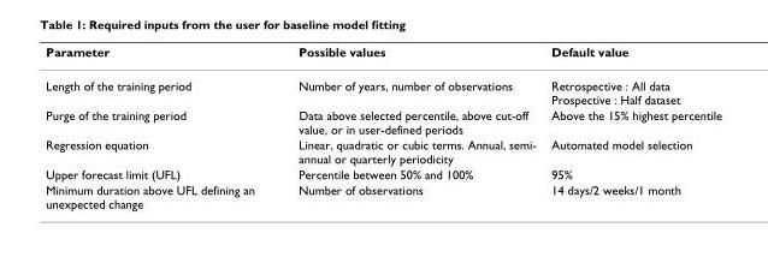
<table><thead><tr><td>Parameter</td><td>Possible values</td><td>Default value</td></tr></thead><tbody><tr><td>Length of the training period</td><td>Number of years, number of observations</td><td>Retrospective : All data Prospective : Half dataset</td></tr><tr><td>Purge of the training period</td><td>Data above selected percentile, above cut-off value, or in user-defined periods</td><td>Above the 15% highest percentile</td></tr><tr><td>Regression equation</td><td>Linear, quadratic or cubic terms. Annual, semi- annual or quarterly periodicity</td><td>Automated model selection</td></tr><tr><td>Upper forecast limit (UFL)</td><td>Percentile between 50% and 100%</td><td>95%</td></tr><tr><td>Minimum duration above UFL defining an unexpected change</td><td>Number of observations</td><td>14 days/2 weeks/1 month</td></tr></tbody></table>